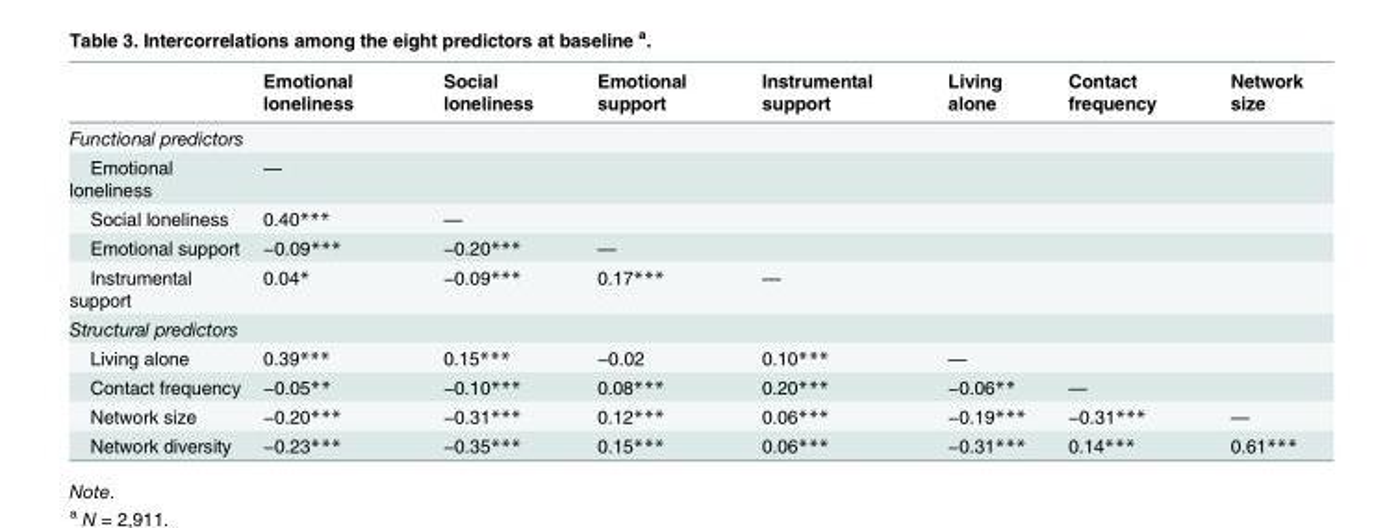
<table><thead><tr><td></td><td>Emotional loneliness</td><td>Social loneliness</td><td>Emotional support</td><td>Instrumental support</td><td>Living alone</td><td>Contact frequency</td><td>Network size</td></tr></thead><tbody><tr><td colspan="8">Functional predictors</td></tr><tr><td>Emotional loneliness</td><td>—</td><td></td><td></td><td></td><td></td><td></td><td></td></tr><tr><td>Social loneliness</td><td>0.40***</td><td>—</td><td></td><td></td><td></td><td></td><td></td></tr><tr><td>Emotional support</td><td>−0.09***</td><td>−0.20***</td><td>—</td><td></td><td></td><td></td><td></td></tr><tr><td>Instrumental support</td><td>0.04*</td><td>−0.09***</td><td>0.17***</td><td>—</td><td></td><td></td><td></td></tr><tr><td colspan="8">Structural predictors</td></tr><tr><td>Living alone</td><td>0.39***</td><td>0.15***</td><td>−0.02</td><td>0.10***</td><td>—</td><td></td><td></td></tr><tr><td>Contact frequency</td><td>−0.05**</td><td>−0.10***</td><td>0.08***</td><td>0.20***</td><td>−0.06**</td><td>—</td><td></td></tr><tr><td>Network size</td><td>−0.20***</td><td>−0.31***</td><td>0.12***</td><td>0.06***</td><td>−0.19***</td><td>−0.31***</td><td>—</td></tr><tr><td>Network diversity</td><td>−0.23***</td><td>−0.35***</td><td>0.15***</td><td>0.06***</td><td>−0.31***</td><td>0.14***</td><td>0.61***</td></tr></tbody></table>